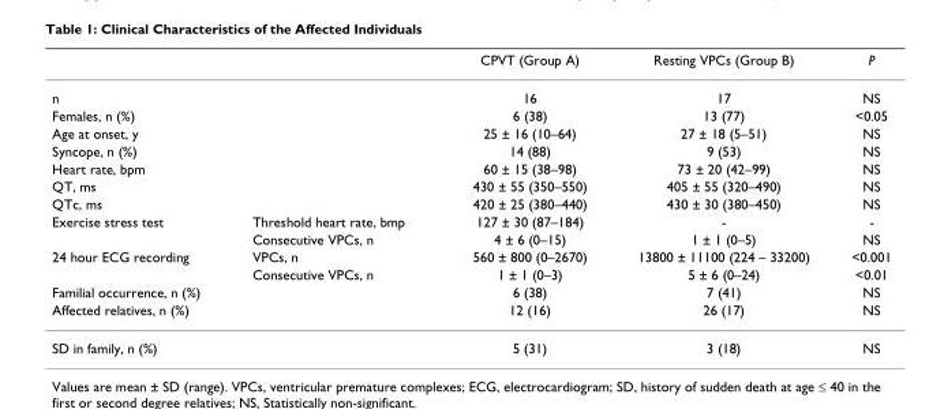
<table><thead><tr><td></td><td></td><td>CPVT (Group A)</td><td>Resting VPCs (Group B)</td><td>P</td></tr></thead><tbody><tr><td>n</td><td></td><td>16</td><td>17</td><td>NS</td></tr><tr><td>Females, n (%)</td><td></td><td>6 (38)</td><td>13 (77)</td><td>&lt;0.05</td></tr><tr><td>Age at onset, y</td><td></td><td>25 ± 16 (10–64)</td><td>27 ± 18 (5–51)</td><td>NS</td></tr><tr><td>Syncope, n (%)</td><td></td><td>14 (88)</td><td>9 (53)</td><td>NS</td></tr><tr><td>Heart rate, bpm</td><td></td><td>60 ± 15 (38–98)</td><td>73 ± 20 (42–99)</td><td>NS</td></tr><tr><td>QT, ms</td><td></td><td>430 ± 55 (350–550)</td><td>405 ± 55 (320–490)</td><td>NS</td></tr><tr><td>QTc, ms</td><td></td><td>420 ± 25 (380–440)</td><td>430 ± 30 (380–450)</td><td>NS</td></tr><tr><td rowspan="2">Exercise stress test</td><td>Threshold heart rate, bmp</td><td>127 ± 30 (87–184)</td><td>-</td><td>-</td></tr><tr><td>Consecutive VPCs, n</td><td>4 ± 6 (0–15)</td><td>1 ± 1 (0–5)</td><td>NS</td></tr><tr><td rowspan="2">24 hour ECG recording</td><td>VPCs, n</td><td>560 ± 800 (0–2670)</td><td>13800 ± 11100 (224 – 33200)</td><td>&lt;0.001</td></tr><tr><td>Consecutive VPCs, n</td><td>1 ± 1 (0–3)</td><td>5 ± 6 (0–24)</td><td>&lt;0.01</td></tr><tr><td>Familial occurrence, n (%)</td><td></td><td>6 (38)</td><td>7 (41)</td><td>NS</td></tr><tr><td>Affected relatives, n (%)</td><td></td><td>12 (16)</td><td>26 (17)</td><td>NS</td></tr><tr><td>SD in family, n (%)</td><td></td><td>5 (31)</td><td>3 (18)</td><td>NS</td></tr></tbody></table>